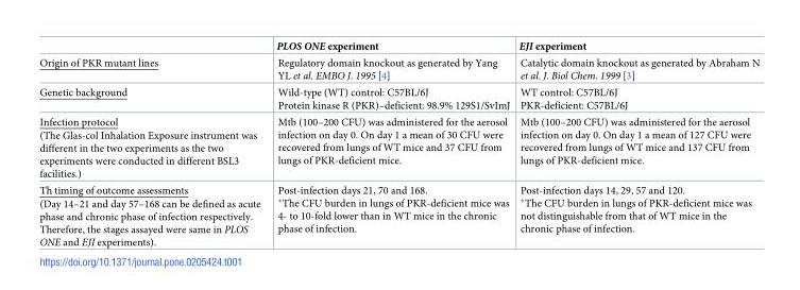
<table><thead><tr><td></td><td>PLOS ONE experiment</td><td>EJI experiment</td></tr></thead><tbody><tr><td>Origin of PKR mutant lines</td><td>Regulatory domain knockout as generated by Yang YL et al. EMBO J. 1995 [4]</td><td>Catalytic domain knockout as generated by Abraham N et al. J. Biol Chem. 1999 [3]</td></tr><tr><td>Genetic background</td><td>Wild-type (WT) control: C57BL/6J Protein kinase R (PKR)–deficient: 98.9% 129S1/SvImJ</td><td>WT control: C57BL/6J PKR-deficient: C57BL/6J</td></tr><tr><td>Infection protocol (The Glas-col Inhalation Exposure instrument was different in the two experiments as the two experiments were conducted in different BSL3 facilities.)</td><td>Mtb (100–200 CFU) was administered for the aerosol infection on day 0. On day 1 a mean of 30 CFU were recovered from lungs of WT mice and 37 CFU from lungs of PKR-deficient mice.</td><td>Mtb (100–200 CFU) was administered for the aerosol infection on day 0. On day 1 a mean of 127 CFU were recovered from lungs of WT mice and 137 CFU from lungs of PKR-deficient mice.</td></tr><tr><td>Th timing of outcome assessments (Day 14–21 and day 57–168 can be defined as acute phase and chronic phase of infection respectively. Therefore, the stages assayed were same in PLOS ONE and EJI experiments).</td><td>Post-infection days 21, 70 and 168. *The CFU burden in lungs of PKR-deficient mice was 4- to 10-fold lower than in WT mice in the chronic phase of infection.</td><td>Post-infection days 14, 29, 57 and 120. *The CFU burden in lungs of PKR-deficient mice was not distinguishable from that of WT mice in the chronic phase of infection.</td></tr></tbody></table>